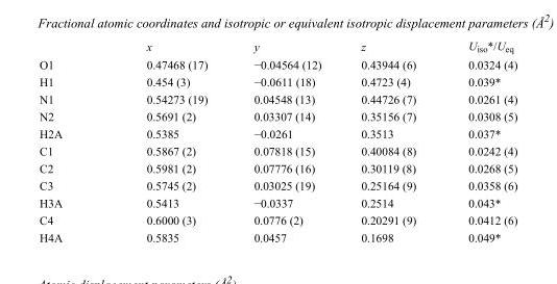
<table><thead><tr><td></td><td>x</td><td>y</td><td>z</td><td>U<sub>iso</sub>*/U<sub>eq</sub></td></tr></thead><tbody><tr><td>O1</td><td>0.47468 (17)</td><td>−0.04564 (12)</td><td>0.43944 (6)</td><td>0.0324 (4)</td></tr><tr><td>H1</td><td>0.454 (3)</td><td>−0.0611 (18)</td><td>0.4723 (4)</td><td>0.039*</td></tr><tr><td>N1</td><td>0.54273 (19)</td><td>0.04548 (13)</td><td>0.44726 (7)</td><td>0.0261 (4)</td></tr><tr><td>N2</td><td>0.5691 (2)</td><td>0.03307 (14)</td><td>0.35156 (7)</td><td>0.0308 (5)</td></tr><tr><td>H2A</td><td>0.5385</td><td>−0.0261</td><td>0.3513</td><td>0.037*</td></tr><tr><td>C1</td><td>0.5867 (2)</td><td>0.07818 (15)</td><td>0.40084 (8)</td><td>0.0242 (4)</td></tr><tr><td>C2</td><td>0.5981 (2)</td><td>0.07776 (16)</td><td>0.30119 (8)</td><td>0.0268 (5)</td></tr><tr><td>C3</td><td>0.5745 (2)</td><td>0.03025 (19)</td><td>0.25164 (9)</td><td>0.0358 (6)</td></tr><tr><td>H3A</td><td>0.5413</td><td>−0.0337</td><td>0.2514</td><td>0.043*</td></tr><tr><td>C4</td><td>0.6000 (3)</td><td>0.0776 (2)</td><td>0.20291 (9)</td><td>0.0412 (6)</td></tr><tr><td>H4A</td><td>0.5835</td><td>0.0457</td><td>0.1698</td><td>0.049*</td></tr></tbody></table>